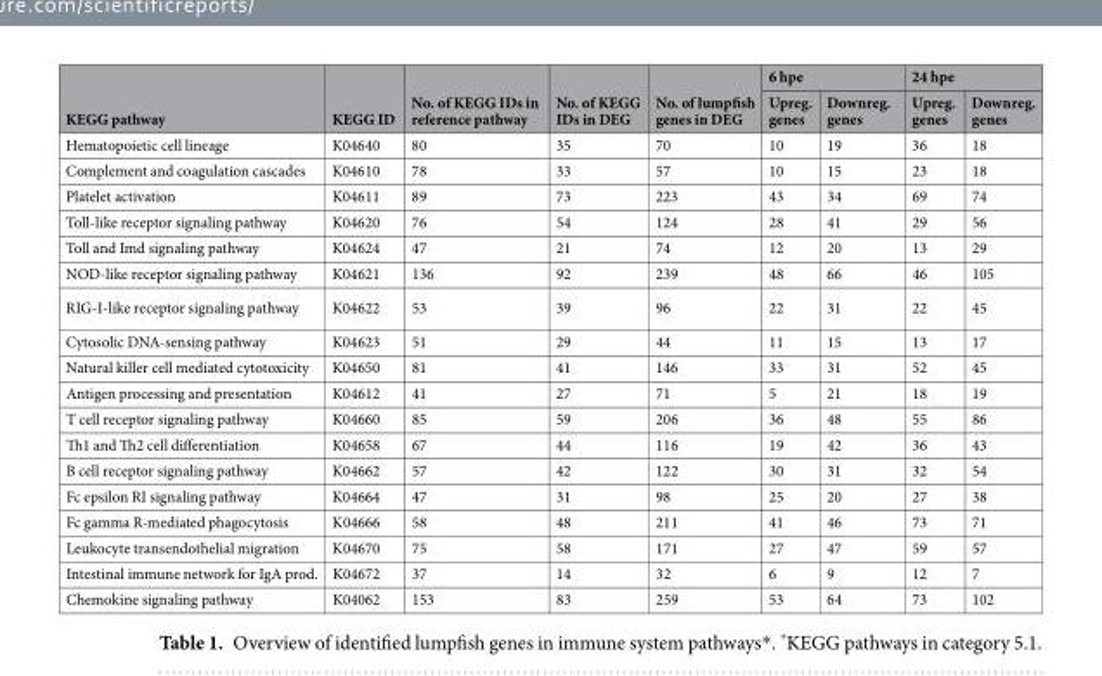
<table><thead><tr><td rowspan="2">KEGG pathway</td><td rowspan="2">KEGG ID</td><td rowspan="2">No. of KEGG IDs in reference pathway</td><td rowspan="2">No. of KEGG IDs in DEG</td><td rowspan="2">No. of lumpfish genes in DEG</td><td colspan="2">6 hpe</td><td colspan="2">24 hpe</td></tr><tr><td>Upreg. genes</td><td>Downreg. genes</td><td>Upreg. genes</td><td>Downreg. genes</td></tr></thead><tbody><tr><td>Hematopoietic cell lineage</td><td>K04640</td><td>80</td><td>35</td><td>70</td><td>10</td><td>19</td><td>36</td><td>18</td></tr><tr><td>Complement and coagulation cascades</td><td>K04610</td><td>78</td><td>33</td><td>57</td><td>10</td><td>15</td><td>23</td><td>18</td></tr><tr><td>Platelet activation</td><td>K04611</td><td>89</td><td>73</td><td>223</td><td>43</td><td>34</td><td>69</td><td>74</td></tr><tr><td>Toll-like receptor signaling pathway</td><td>K04620</td><td>76</td><td>54</td><td>124</td><td>28</td><td>41</td><td>29</td><td>56</td></tr><tr><td>Toll and Imd signaling pathway</td><td>K04624</td><td>47</td><td>21</td><td>74</td><td>12</td><td>20</td><td>13</td><td>29</td></tr><tr><td>NOD-like receptor signaling pathway</td><td>K04621</td><td>136</td><td>92</td><td>239</td><td>48</td><td>66</td><td>46</td><td>105</td></tr><tr><td>RIG-I-like receptor signaling pathway</td><td>K04622</td><td>53</td><td>39</td><td>96</td><td>22</td><td>31</td><td>22</td><td>45</td></tr><tr><td>Cytosolic DNA-sensing pathway</td><td>K04623</td><td>51</td><td>29</td><td>44</td><td>11</td><td>15</td><td>13</td><td>17</td></tr><tr><td>Natural killer cell mediated cytotoxicity</td><td>K04650</td><td>81</td><td>41</td><td>146</td><td>33</td><td>31</td><td>52</td><td>45</td></tr><tr><td>Antigen processing and presentation</td><td>K04612</td><td>41</td><td>27</td><td>71</td><td>5</td><td>21</td><td>18</td><td>19</td></tr><tr><td>T cell receptor signaling pathway</td><td>K04660</td><td>85</td><td>59</td><td>206</td><td>36</td><td>48</td><td>55</td><td>86</td></tr><tr><td>Th1 and Th2 cell differentiation</td><td>K04658</td><td>67</td><td>44</td><td>116</td><td>19</td><td>42</td><td>36</td><td>43</td></tr><tr><td>B cell receptor signaling pathway</td><td>K04662</td><td>57</td><td>42</td><td>122</td><td>30</td><td>31</td><td>32</td><td>54</td></tr><tr><td>Fc epsilon RI signaling pathway</td><td>K04664</td><td>47</td><td>31</td><td>98</td><td>25</td><td>20</td><td>27</td><td>38</td></tr><tr><td>Fc gamma R-mediated phagocytosis</td><td>K04666</td><td>58</td><td>48</td><td>211</td><td>41</td><td>46</td><td>73</td><td>71</td></tr><tr><td>Leukocyte transendothelial migration</td><td>K04670</td><td>75</td><td>58</td><td>171</td><td>27</td><td>47</td><td>59</td><td>57</td></tr><tr><td>Intestinal immune network for IgA prod.</td><td>K04672</td><td>37</td><td>14</td><td>32</td><td>6</td><td>9</td><td>12</td><td>7</td></tr><tr><td>Chemokine signaling pathway</td><td>K04062</td><td>153</td><td>83</td><td>259</td><td>53</td><td>64</td><td>73</td><td>102</td></tr></tbody></table>